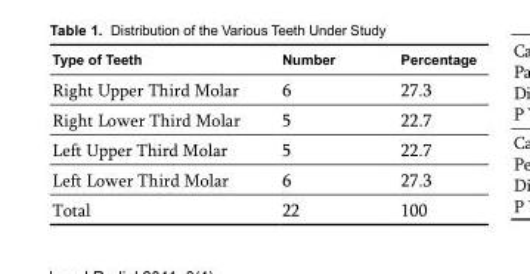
<table><thead><tr><td>Type of Teeth</td><td>Number</td><td>Percentage</td></tr></thead><tbody><tr><td>Right Upper Third Molar</td><td>6</td><td>27.3</td></tr><tr><td>Right Lower Third Molar</td><td>5</td><td>22.7</td></tr><tr><td>Left Upper Third Molar</td><td>5</td><td>22.7</td></tr><tr><td>Left Lower Third Molar</td><td>6</td><td>27.3</td></tr><tr><td>Total</td><td>22</td><td>100</td></tr></tbody></table>